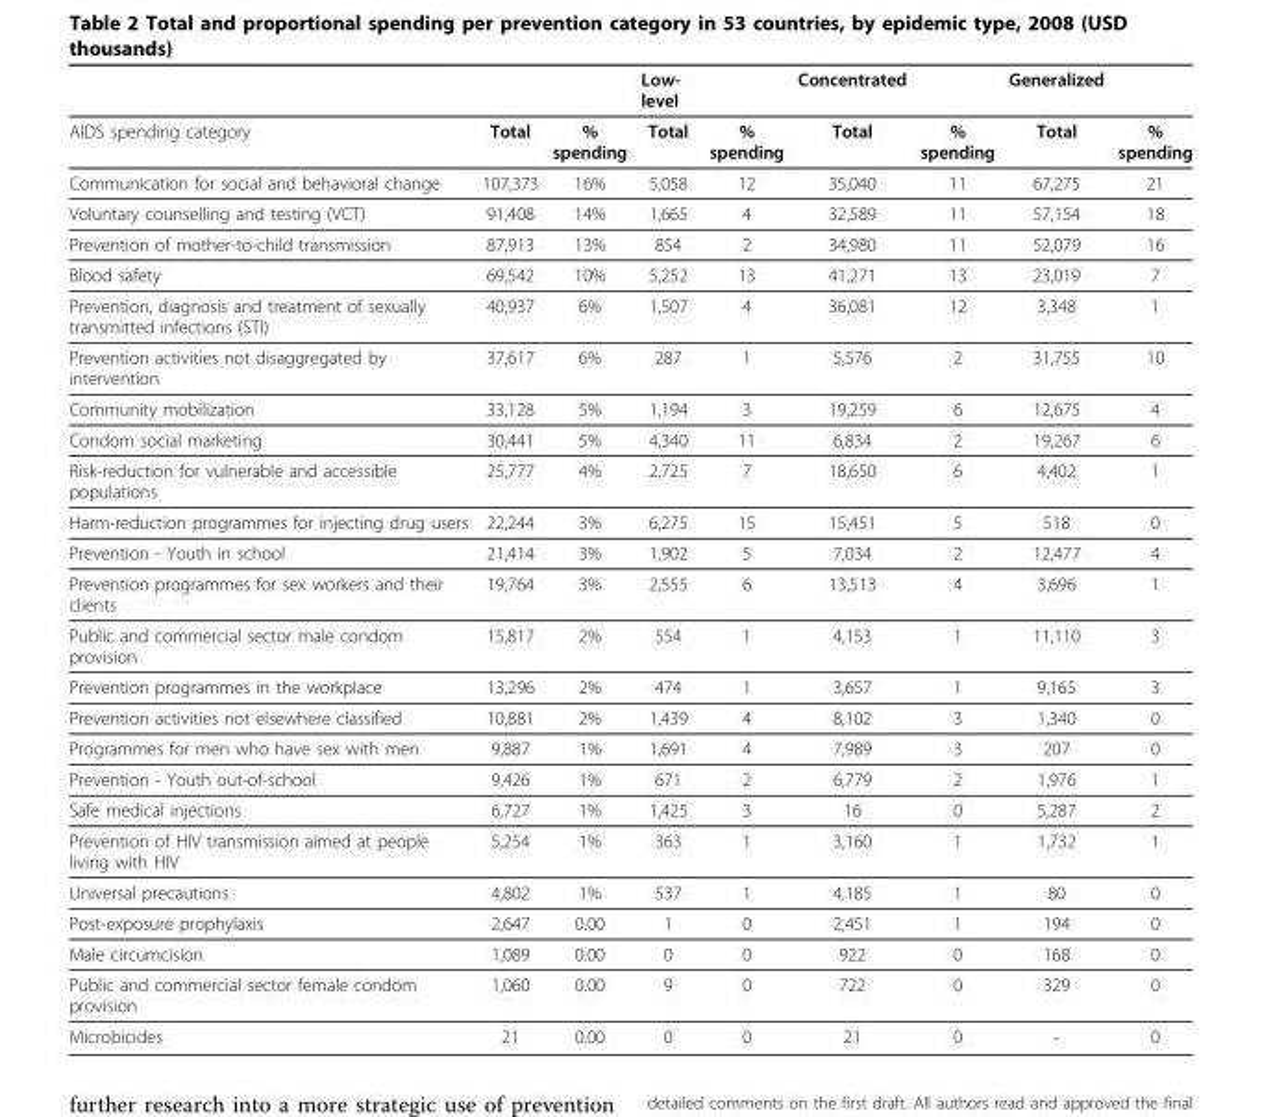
<table><thead><tr><td></td><td></td><td></td><td>Low- level</td><td></td><td>Concentrated</td><td></td><td>Generalized</td><td></td></tr></thead><tbody><tr><td>AIDS spending category</td><td>Total</td><td>% spending</td><td>Total</td><td>% spending</td><td>Total</td><td>% spending</td><td>Total</td><td>% spending</td></tr><tr><td>Communication for social and behavioral change</td><td>107,373</td><td>16%</td><td>5,058</td><td>12</td><td>35,040</td><td>11</td><td>67,275</td><td>21</td></tr><tr><td>Voluntary counselling and testing (VCT)</td><td>91,408</td><td>14%</td><td>1,665</td><td>4</td><td>32,589</td><td>11</td><td>57,154</td><td>18</td></tr><tr><td>Prevention of mother-to-child transmission</td><td>87,913</td><td>13%</td><td>854</td><td>2</td><td>34,980</td><td>11</td><td>52,079</td><td>16</td></tr><tr><td>Blood safety</td><td>69,542</td><td>10%</td><td>5,252</td><td>13</td><td>41,271</td><td>13</td><td>23,019</td><td>7</td></tr><tr><td>Prevention, diagnosis and treatment of sexually transmitted infections (STI)</td><td>40,937</td><td>6%</td><td>1,507</td><td>4</td><td>36,081</td><td>12</td><td>3,348</td><td>1</td></tr><tr><td>Prevention activities not disaggregated by intervention</td><td>37,617</td><td>6%</td><td>287</td><td>1</td><td>5,576</td><td>2</td><td>31,755</td><td>10</td></tr><tr><td>Community mobilization</td><td>33,128</td><td>5%</td><td>1,194</td><td>3</td><td>19,259</td><td>6</td><td>12,675</td><td>4</td></tr><tr><td>Condom social marketing</td><td>30,441</td><td>5%</td><td>4,340</td><td>11</td><td>6,834</td><td>2</td><td>19,267</td><td>6</td></tr><tr><td>Risk-reduction for vulnerable and accessible populations</td><td>25,777</td><td>4%</td><td>2,725</td><td>7</td><td>18,650</td><td>6</td><td>4,402</td><td>1</td></tr><tr><td>Harm-reduction programmes for injecting drug users</td><td>22,244</td><td>3%</td><td>6,275</td><td>15</td><td>15,451</td><td>5</td><td>518</td><td>0</td></tr><tr><td>Prevention - Youth in school</td><td>21,414</td><td>3%</td><td>1,902</td><td>5</td><td>7,034</td><td>2</td><td>12,477</td><td>4</td></tr><tr><td>Prevention programmes for sex workers and their clients</td><td>19,764</td><td>3%</td><td>2,555</td><td>6</td><td>13,513</td><td>4</td><td>3,696</td><td>1</td></tr><tr><td>Public and commercial sector male condom provision</td><td>15,817</td><td>2%</td><td>554</td><td>1</td><td>4,153</td><td>1</td><td>11,110</td><td>3</td></tr><tr><td>Prevention programmes in the workplace</td><td>13,296</td><td>2%</td><td>474</td><td>1</td><td>3,657</td><td>1</td><td>9,165</td><td>3</td></tr><tr><td>Prevention activities not elsewhere classified</td><td>10,881</td><td>2%</td><td>1,439</td><td>4</td><td>8,102</td><td>3</td><td>1,340</td><td>0</td></tr><tr><td>Programmes for men who have sex with men</td><td>9,887</td><td>1%</td><td>1,691</td><td>4</td><td>7,989</td><td>3</td><td>207</td><td>0</td></tr><tr><td>Prevention - Youth out-of-school</td><td>9,426</td><td>1%</td><td>671</td><td>2</td><td>6,779</td><td>2</td><td>1,976</td><td>1</td></tr><tr><td>Safe medical injections</td><td>6,727</td><td>1%</td><td>1,425</td><td>3</td><td>16</td><td>0</td><td>5,287</td><td>2</td></tr><tr><td>Prevention of HIV transmission aimed at people living with HIV</td><td>5,254</td><td>1%</td><td>363</td><td>1</td><td>3,160</td><td>1</td><td>1,732</td><td>1</td></tr><tr><td>Universal precautions</td><td>4,802</td><td>1%</td><td>537</td><td>1</td><td>4,185</td><td>1</td><td>80</td><td>0</td></tr><tr><td>Post-exposure prophylaxis</td><td>2,647</td><td>0.00</td><td>1</td><td>0</td><td>2,451</td><td>1</td><td>194</td><td>0</td></tr><tr><td>Male circumcision</td><td>1,089</td><td>0.00</td><td>0</td><td>0</td><td>922</td><td>0</td><td>168</td><td>0</td></tr><tr><td>Public and commercial sector female condom provision</td><td>1,060</td><td>0.00</td><td>9</td><td>0</td><td>722</td><td>0</td><td>329</td><td>0</td></tr><tr><td>Microbicides</td><td>21</td><td>0.00</td><td>0</td><td>0</td><td>21</td><td>0</td><td>-</td><td>0</td></tr></tbody></table>